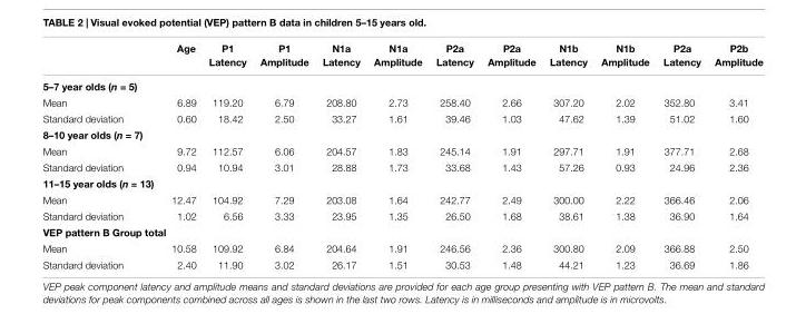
<table><thead><tr><td></td><td>Age</td><td>P1 Latency</td><td>P1 Amplitude</td><td>N1a Latency</td><td>N1a Amplitude</td><td>P2a Latency</td><td>P2a Amplitude</td><td>N1b Latency</td><td>N1b Amplitude</td><td>P2a Latency</td><td>P2b Amplitude</td></tr></thead><tbody><tr><td colspan="12">5–7 year olds (n = 5)</td></tr><tr><td>Mean</td><td>6.89</td><td>119.20</td><td>6.79</td><td>208.80</td><td>2.73</td><td>258.40</td><td>2.66</td><td>307.20</td><td>2.02</td><td>352.80</td><td>3.41</td></tr><tr><td>Standard deviation</td><td>0.60</td><td>18.42</td><td>2.50</td><td>33.27</td><td>1.61</td><td>39.46</td><td>1.03</td><td>47.62</td><td>1.39</td><td>51.02</td><td>1.60</td></tr><tr><td colspan="12">8–10 year olds (n = 7)</td></tr><tr><td>Mean</td><td>9.72</td><td>112.57</td><td>6.06</td><td>204.57</td><td>1.83</td><td>245.14</td><td>1.91</td><td>297.71</td><td>1.91</td><td>377.71</td><td>2.68</td></tr><tr><td>Standard deviation</td><td>0.94</td><td>10.94</td><td>3.01</td><td>28.88</td><td>1.73</td><td>33.68</td><td>1.43</td><td>57.26</td><td>0.93</td><td>24.96</td><td>2.36</td></tr><tr><td colspan="12">11–15 year olds (n = 13)</td></tr><tr><td>Mean</td><td>12.47</td><td>104.92</td><td>7.29</td><td>203.08</td><td>1.64</td><td>242.77</td><td>2.49</td><td>300.00</td><td>2.22</td><td>366.46</td><td>2.06</td></tr><tr><td>Standard deviation</td><td>1.02</td><td>6.56</td><td>3.33</td><td>23.95</td><td>1.35</td><td>26.50</td><td>1.68</td><td>38.61</td><td>1.38</td><td>36.90</td><td>1.64</td></tr><tr><td colspan="12">VEP pattern B Group total</td></tr><tr><td>Mean</td><td>10.58</td><td>109.92</td><td>6.84</td><td>204.64</td><td>1.91</td><td>246.56</td><td>2.36</td><td>300.80</td><td>2.09</td><td>366.88</td><td>2.50</td></tr><tr><td>Standard deviation</td><td>2.40</td><td>11.90</td><td>3.02</td><td>26.17</td><td>1.51</td><td>30.53</td><td>1.48</td><td>44.21</td><td>1.23</td><td>36.69</td><td>1.86</td></tr></tbody></table>